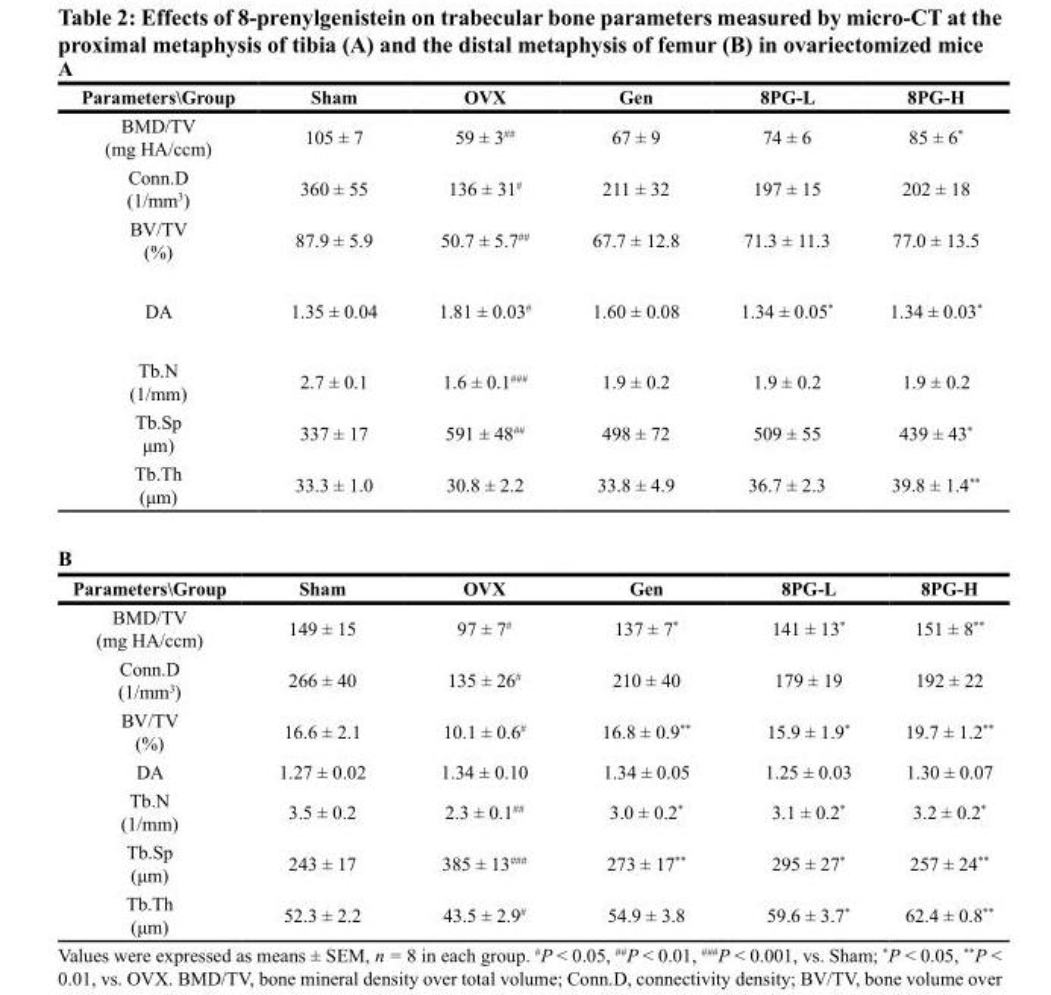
<table><tbody><tr><td colspan="6">A</td></tr><tr><td>Parameters\Group</td><td>Sham</td><td>OVX</td><td>Gen</td><td>8PG-L</td><td>8PG-H</td></tr><tr><td>BMD/TV (mg HA/ccm)</td><td>105 ± 7</td><td>59 ± 3<sup>##</sup></td><td>67 ± 9</td><td>74 ± 6</td><td>85 ± 6*</td></tr><tr><td>Conn.D (1/mm<sup>3</sup>)</td><td>360 ± 55</td><td>136 ± 31<sup>#</sup></td><td>211 ± 32</td><td>197 ± 15</td><td>202 ± 18</td></tr><tr><td>BV/TV (%)</td><td>87.9 ± 5.9</td><td>50.7 ± 5.7<sup>##</sup></td><td>67.7 ± 12.8</td><td>71.3 ± 11.3</td><td>77.0 ± 13.5</td></tr><tr><td>DA</td><td>1.35 ± 0.04</td><td>1.81 ± 0.03<sup>#</sup></td><td>1.60 ± 0.08</td><td>1.34 ± 0.05*</td><td>1.34 ± 0.03*</td></tr><tr><td>Tb.N (1/mm)</td><td>2.7 ± 0.1</td><td>1.6 ± 0.1<sup>###</sup></td><td>1.9 ± 0.2</td><td>1.9 ± 0.2</td><td>1.9 ± 0.2</td></tr><tr><td>Tb.Sp μm)</td><td>337 ± 17</td><td>591 ± 48<sup>##</sup></td><td>498 ± 72</td><td>509 ± 55</td><td>439 ± 43*</td></tr><tr><td>Tb.Th (μm)</td><td>33.3 ± 1.0</td><td>30.8 ± 2.2</td><td>33.8 ± 4.9</td><td>36.7 ± 2.3</td><td>39.8 ± 1.4**</td></tr><tr><td colspan="6">B</td></tr><tr><td>Parameters\Group</td><td>Sham</td><td>OVX</td><td>Gen</td><td>8PG-L</td><td>8PG-H</td></tr><tr><td>BMD/TV (mg HA/ccm)</td><td>149 ± 15</td><td>97 ± 7<sup>#</sup></td><td>137 ± 7*</td><td>141 ± 13*</td><td>151 ± 8**</td></tr><tr><td>Conn.D (1/mm<sup>3</sup>)</td><td>266 ± 40</td><td>135 ± 26<sup>#</sup></td><td>210 ± 40</td><td>179 ± 19</td><td>192 ± 22</td></tr><tr><td>BV/TV (%)</td><td>16.6 ± 2.1</td><td>10.1 ± 0.6<sup>#</sup></td><td>16.8 ± 0.9**</td><td>15.9 ± 1.9*</td><td>19.7 ± 1.2**</td></tr><tr><td>DA</td><td>1.27 ± 0.02</td><td>1.34 ± 0.10</td><td>1.34 ± 0.05</td><td>1.25 ± 0.03</td><td>1.30 ± 0.07</td></tr><tr><td>Tb.N (1/mm)</td><td>3.5 ± 0.2</td><td>2.3 ± 0.1<sup>##</sup></td><td>3.0 ± 0.2*</td><td>3.1 ± 0.2*</td><td>3.2 ± 0.2*</td></tr><tr><td>Tb.Sp (μm)</td><td>243 ± 17</td><td>385 ± 13<sup>###</sup></td><td>273 ± 17**</td><td>295 ± 27*</td><td>257 ± 24**</td></tr><tr><td>Tb.Th (μm)</td><td>52.3 ± 2.2</td><td>43.5 ± 2.9<sup>#</sup></td><td>54.9 ± 3.8</td><td>59.6 ± 3.7*</td><td>62.4 ± 0.8**</td></tr></tbody></table>